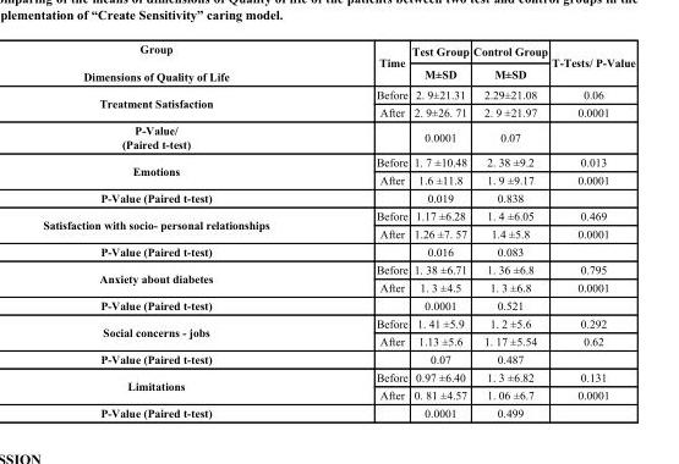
<table><thead><tr><td rowspan="2">Group Dimensions of Quality of Life</td><td rowspan="2">Time</td><td rowspan="2">Test Group M±SD</td><td rowspan="2">Control Group M±SD</td><td rowspan="2">T-Tests/ P-Value</td></tr><tr></tr></thead><tbody><tr><td rowspan="2">Treatment Satisfaction</td><td>Before</td><td>2. 9±21.31</td><td>2.29±21.08</td><td>0.06</td></tr><tr><td>After</td><td>2. 9±26. 71</td><td>2. 9 ±21.97</td><td>0.0001</td></tr><tr><td>P-Value/ (Paired t-test)</td><td></td><td>0.0001</td><td>0.07</td><td></td></tr><tr><td rowspan="2">Emotions</td><td>Before</td><td>1. 7 ±10.48</td><td>2. 38 ±9.2</td><td>0.013</td></tr><tr><td>After</td><td>1.6 ±11.8</td><td>1. 9 ±9.17</td><td>0.0001</td></tr><tr><td>P-Value (Paired t-test)</td><td></td><td>0.019</td><td>0.838</td><td></td></tr><tr><td rowspan="2">Satisfaction with socio- personal relationships</td><td>Before</td><td>1.17 ±6.28</td><td>1. 4 ±6.05</td><td>0.469</td></tr><tr><td>After</td><td>1.26 ±7. 57</td><td>1.4 ±5.8</td><td>0.0001</td></tr><tr><td>P-Value (Paired t-test)</td><td></td><td>0.016</td><td>0.083</td><td></td></tr><tr><td rowspan="2">Anxiety about diabetes</td><td>Before</td><td>1. 38 ±6.71</td><td>1. 36 ±6.8</td><td>0.795</td></tr><tr><td>After</td><td>1. 3 ±4.5</td><td>1. 3 ±6.8</td><td>0.0001</td></tr><tr><td>P-Value (Paired t-test)</td><td></td><td>0.0001</td><td>0.521</td><td></td></tr><tr><td rowspan="2">Social concerns - jobs</td><td>Before</td><td>1. 41 ±5.9</td><td>1. 2 ±5.6</td><td>0.292</td></tr><tr><td>After</td><td>1.13 ±5.6</td><td>1. 17 ±5.54</td><td>0.62</td></tr><tr><td>P-Value (Paired t-test)</td><td></td><td>0.07</td><td>0.487</td><td></td></tr><tr><td rowspan="2">Limitations</td><td>Before</td><td>0.97 ±6.40</td><td>1. 3 ±6.82</td><td>0.131</td></tr><tr><td>After</td><td>0. 81 ±4.57</td><td>1. 06 ±6.7</td><td>0.0001</td></tr><tr><td>P-Value (Paired t-test)</td><td></td><td>0.0001</td><td>0.499</td><td></td></tr></tbody></table>